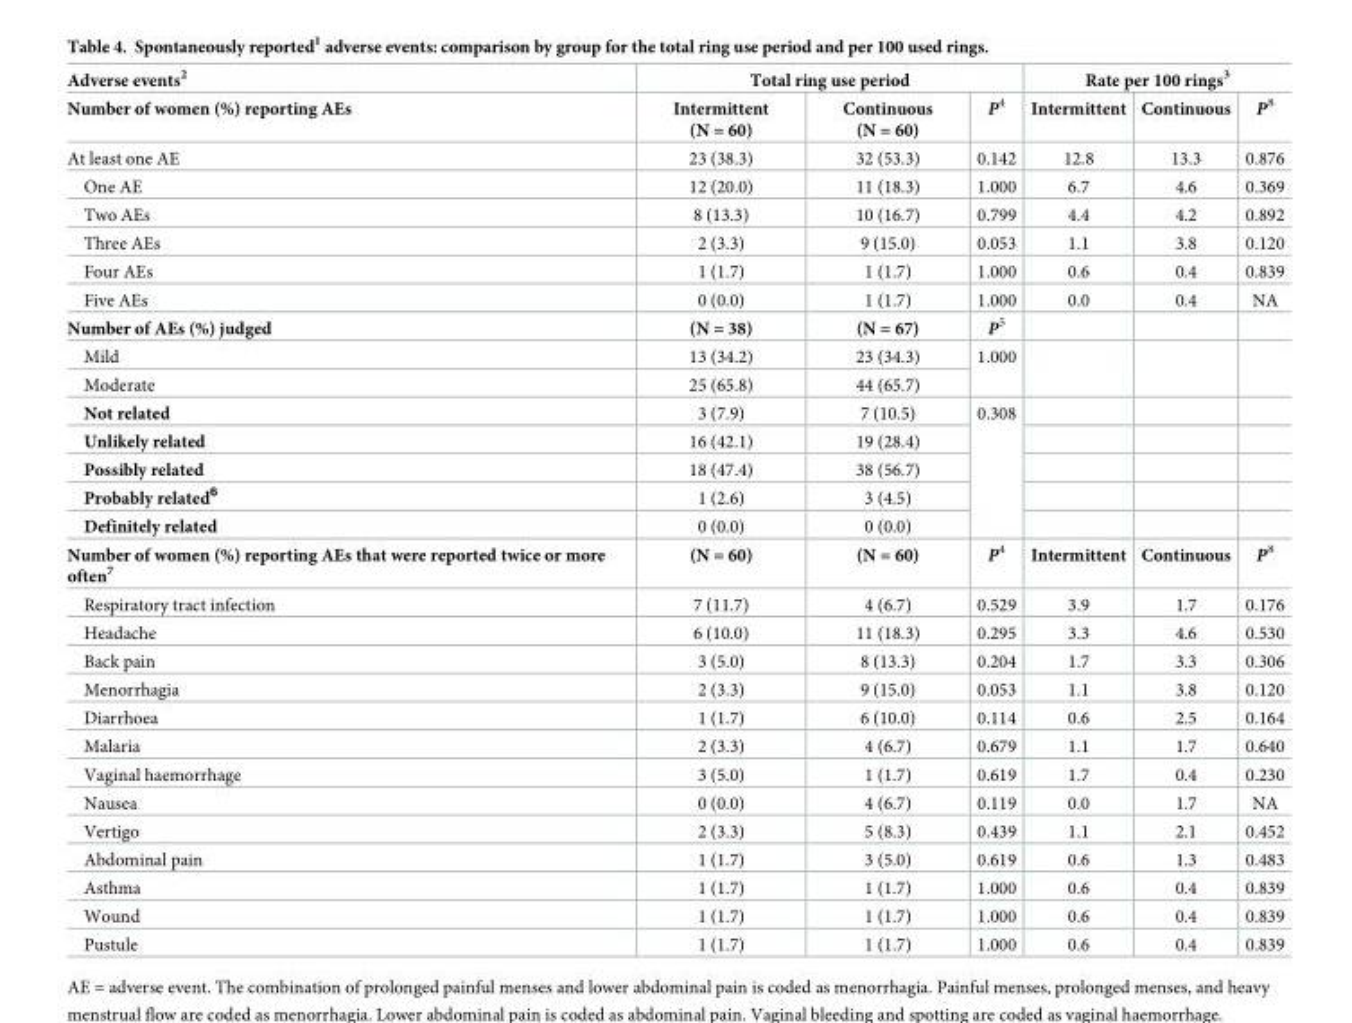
<table><thead><tr><td rowspan="2">Adverse events<sup>2</sup> Number of women (%) reporting AEs</td><td colspan="3">Total ring use period</td><td colspan="3">Rate per 100 rings<sup>3</sup></td></tr><tr><td>Intermittent (N = 60)</td><td>Continuous (N = 60)</td><td>P<sup>4</sup></td><td>Intermittent</td><td>Continuous</td><td>P<sup>8</sup></td></tr></thead><tbody><tr><td>At least one AE</td><td>23 (38.3)</td><td>32 (53.3)</td><td>0.142</td><td>12.8</td><td>13.3</td><td>0.876</td></tr><tr><td>One AE</td><td>12 (20.0)</td><td>11 (18.3)</td><td>1.000</td><td>6.7</td><td>4.6</td><td>0.369</td></tr><tr><td>Two AEs</td><td>8 (13.3)</td><td>10 (16.7)</td><td>0.799</td><td>4.4</td><td>4.2</td><td>0.892</td></tr><tr><td>Three AEs</td><td>2 (3.3)</td><td>9 (15.0)</td><td>0.053</td><td>1.1</td><td>3.8</td><td>0.120</td></tr><tr><td>Four AEs</td><td>1 (1.7)</td><td>1 (1.7)</td><td>1.000</td><td>0.6</td><td>0.4</td><td>0.839</td></tr><tr><td>Five AEs</td><td>0 (0.0)</td><td>1 (1.7)</td><td>1.000</td><td>0.0</td><td>0.4</td><td>NA</td></tr><tr><td>Number of AEs (%) judged</td><td>(N = 38)</td><td>(N = 67)</td><td>P<sup>5</sup></td><td></td><td></td><td></td></tr><tr><td>Mild</td><td>13 (34.2)</td><td>23 (34.3)</td><td rowspan="2">1.000</td><td rowspan="2"></td><td rowspan="2"></td><td rowspan="2"></td></tr><tr><td>Moderate</td><td>25 (65.8)</td><td>44 (65.7)</td></tr><tr><td>Not related</td><td>3 (7.9)</td><td>7 (10.5)</td><td rowspan="5">0.308</td><td></td><td></td><td></td></tr><tr><td>Unlikely related</td><td>16 (42.1)</td><td>19 (28.4)</td><td></td><td></td><td></td></tr><tr><td>Possibly related</td><td>18 (47.4)</td><td>38 (56.7)</td><td></td><td></td><td></td></tr><tr><td>Probably related6</td><td>1 (2.6)</td><td>3 (4.5)</td><td></td><td></td><td></td></tr><tr><td>Definitely related</td><td>0 (0.0)</td><td>0 (0.0)</td><td></td><td></td><td></td></tr><tr><td>Number of women (%) reporting AEs that were reported twice or more often<sup>7</sup></td><td>(N = 60)</td><td>(N = 60)</td><td>P<sup>4</sup></td><td>Intermittent</td><td>Continuous</td><td>P<sup>8</sup></td></tr><tr><td>Respiratory tract infection</td><td>7 (11.7)</td><td>4 (6.7)</td><td>0.529</td><td>3.9</td><td>1.7</td><td>0.176</td></tr><tr><td>Headache</td><td>6 (10.0)</td><td>11 (18.3)</td><td>0.295</td><td>3.3</td><td>4.6</td><td>0.530</td></tr><tr><td>Back pain</td><td>3 (5.0)</td><td>8 (13.3)</td><td>0.204</td><td>1.7</td><td>3.3</td><td>0.306</td></tr><tr><td>Menorrhagia</td><td>2 (3.3)</td><td>9 (15.0)</td><td>0.053</td><td>1.1</td><td>3.8</td><td>0.120</td></tr><tr><td>Diarrhoea</td><td>1 (1.7)</td><td>6 (10.0)</td><td>0.114</td><td>0.6</td><td>2.5</td><td>0.164</td></tr><tr><td>Malaria</td><td>2 (3.3)</td><td>4 (6.7)</td><td>0.679</td><td>1.1</td><td>1.7</td><td>0.640</td></tr><tr><td>Vaginal haemorrhage</td><td>3 (5.0)</td><td>1 (1.7)</td><td>0.619</td><td>1.7</td><td>0.4</td><td>0.230</td></tr><tr><td>Nausea</td><td>0 (0.0)</td><td>4 (6.7)</td><td>0.119</td><td>0.0</td><td>1.7</td><td>NA</td></tr><tr><td>Vertigo</td><td>2 (3.3)</td><td>5 (8.3)</td><td>0.439</td><td>1.1</td><td>2.1</td><td>0.452</td></tr><tr><td>Abdominal pain</td><td>1 (1.7)</td><td>3 (5.0)</td><td>0.619</td><td>0.6</td><td>1.3</td><td>0.483</td></tr><tr><td>Asthma</td><td>1 (1.7)</td><td>1 (1.7)</td><td>1.000</td><td>0.6</td><td>0.4</td><td>0.839</td></tr><tr><td>Wound</td><td>1 (1.7)</td><td>1 (1.7)</td><td>1.000</td><td>0.6</td><td>0.4</td><td>0.839</td></tr><tr><td>Pustule</td><td>1 (1.7)</td><td>1 (1.7)</td><td>1.000</td><td>0.6</td><td>0.4</td><td>0.839</td></tr></tbody></table>